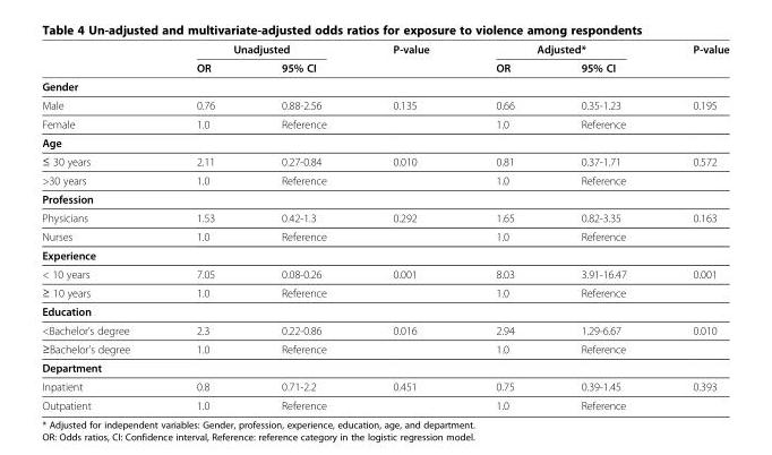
<table><thead><tr><td rowspan="2"></td><td colspan="2">Unadjusted</td><td rowspan="2">P-value</td><td colspan="2">Adjusted*</td><td rowspan="2">P-value</td></tr><tr><td>OR</td><td>95% CI</td><td>OR</td><td>95% CI</td></tr></thead><tbody><tr><td colspan="7">Gender</td></tr><tr><td>Male</td><td>0.76</td><td>0.88-2.56</td><td>0.135</td><td>0.66</td><td>0.35-1.23</td><td>0.195</td></tr><tr><td>Female</td><td>1.0</td><td>Reference</td><td></td><td>1.0</td><td>Reference</td><td></td></tr><tr><td colspan="7">Age</td></tr><tr><td>≤ 30 years</td><td>2.11</td><td>0.27-0.84</td><td>0.010</td><td>0.81</td><td>0.37-1.71</td><td>0.572</td></tr><tr><td>&gt;30 years</td><td>1.0</td><td>Reference</td><td></td><td>1.0</td><td>Reference</td><td></td></tr><tr><td colspan="7">Profession</td></tr><tr><td>Physicians</td><td>1.53</td><td>0.42-1.3</td><td>0.292</td><td>1.65</td><td>0.82-3.35</td><td>0.163</td></tr><tr><td>Nurses</td><td>1.0</td><td>Reference</td><td></td><td>1.0</td><td>Reference</td><td></td></tr><tr><td colspan="7">Experience</td></tr><tr><td>&lt; 10 years</td><td>7.05</td><td>0.08-0.26</td><td>0.001</td><td>8.03</td><td>3.91-16.47</td><td>0.001</td></tr><tr><td>≥ 10 years</td><td>1.0</td><td>Reference</td><td></td><td>1.0</td><td>Reference</td><td></td></tr><tr><td colspan="7">Education</td></tr><tr><td>&lt;Bachelor’s degree</td><td>2.3</td><td>0.22-0.86</td><td>0.016</td><td>2.94</td><td>1.29-6.67</td><td>0.010</td></tr><tr><td>≥Bachelor’s degree</td><td>1.0</td><td>Reference</td><td></td><td>1.0</td><td>Reference</td><td></td></tr><tr><td colspan="7">Department</td></tr><tr><td>Inpatient</td><td>0.8</td><td>0.71-2.2</td><td>0.451</td><td>0.75</td><td>0.39-1.45</td><td>0.393</td></tr><tr><td>Outpatient</td><td>1.0</td><td>Reference</td><td></td><td>1.0</td><td>Reference</td><td></td></tr></tbody></table>